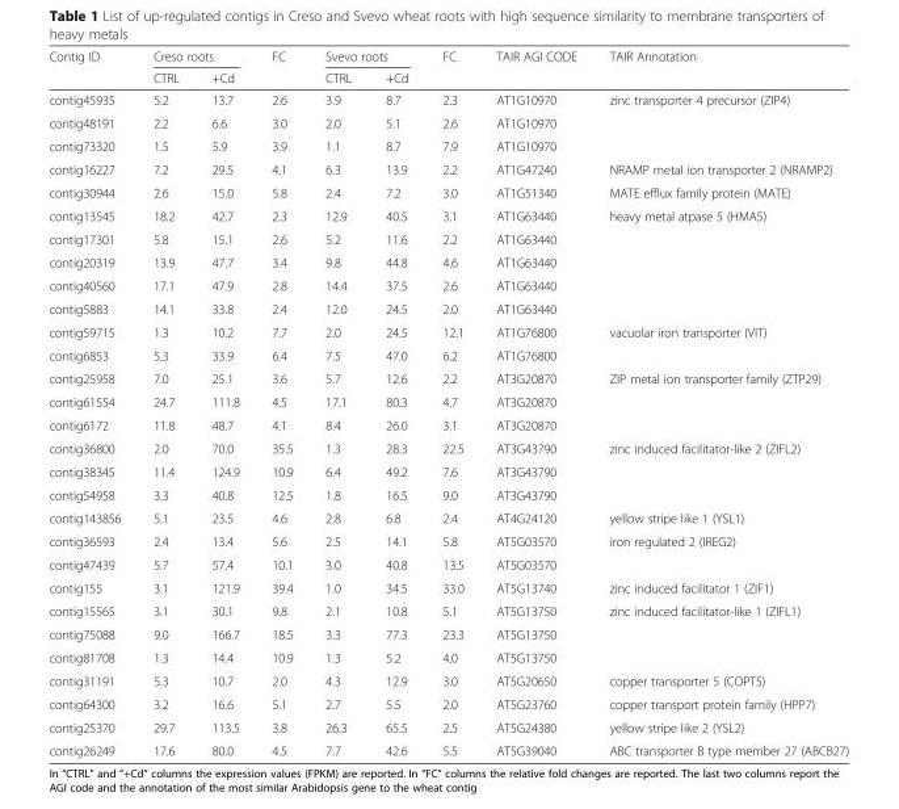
<table><thead><tr><td rowspan="2">Contig ID</td><td colspan="2">Creso roots</td><td rowspan="2">FC</td><td colspan="2">Svevo roots</td><td rowspan="2">FC</td><td rowspan="2">TAIR AGI CODE</td><td rowspan="2">TAIR Annotation</td></tr><tr><td>CTRL</td><td>+Cd</td><td>CTRL</td><td>+Cd</td></tr></thead><tbody><tr><td>contig45935</td><td>5.2</td><td>13.7</td><td>2.6</td><td>3.9</td><td>8.7</td><td>2.3</td><td>AT1G10970</td><td rowspan="3">zinc transporter 4 precursor (ZIP4)</td></tr><tr><td>contig48191</td><td>2.2</td><td>6.6</td><td>3.0</td><td>2.0</td><td>5.1</td><td>2.6</td><td>AT1G10970</td></tr><tr><td>contig73320</td><td>1.5</td><td>5.9</td><td>3.9</td><td>1.1</td><td>8.7</td><td>7.9</td><td>AT1G10970</td></tr><tr><td>contig16227</td><td>7.2</td><td>29.5</td><td>4.1</td><td>6.3</td><td>13.9</td><td>2.2</td><td>AT1G47240</td><td>NRAMP metal ion transporter 2 (NRAMP2)</td></tr><tr><td>contig30944</td><td>2.6</td><td>15.0</td><td>5.8</td><td>2.4</td><td>7.2</td><td>3.0</td><td>AT1G51340</td><td>MATE efflux family protein (MATE)</td></tr><tr><td>contig13545</td><td>18.2</td><td>42.7</td><td>2.3</td><td>12.9</td><td>40.5</td><td>3.1</td><td>AT1G63440</td><td rowspan="5">heavy metal atpase 5 (HMA5)</td></tr><tr><td>contig17301</td><td>5.8</td><td>15.1</td><td>2.6</td><td>5.2</td><td>11.6</td><td>2.2</td><td>AT1G63440</td></tr><tr><td>contig20319</td><td>13.9</td><td>47.7</td><td>3.4</td><td>9.8</td><td>44.8</td><td>4.6</td><td>AT1G63440</td></tr><tr><td>contig40560</td><td>17.1</td><td>47.9</td><td>2.8</td><td>14.4</td><td>37.5</td><td>2.6</td><td>AT1G63440</td></tr><tr><td>contig5883</td><td>14.1</td><td>33.8</td><td>2.4</td><td>12.0</td><td>24.5</td><td>2.0</td><td>AT1G63440</td></tr><tr><td>contig59715</td><td>1.3</td><td>10.2</td><td>7.7</td><td>2.0</td><td>24.5</td><td>12.1</td><td>AT1G76800</td><td rowspan="2">vacuolar iron transporter (VIT)</td></tr><tr><td>contig6853</td><td>5.3</td><td>33.9</td><td>6.4</td><td>7.5</td><td>47.0</td><td>6.2</td><td>AT1G76800</td></tr><tr><td>contig25958</td><td>7.0</td><td>25.1</td><td>3.6</td><td>5.7</td><td>12.6</td><td>2.2</td><td>AT3G20870</td><td rowspan="3">ZIP metal ion transporter family (ZTP29)</td></tr><tr><td>contig61554</td><td>24.7</td><td>111.8</td><td>4.5</td><td>17.1</td><td>80.3</td><td>4.7</td><td>AT3G20870</td></tr><tr><td>contig6172</td><td>11.8</td><td>48.7</td><td>4.1</td><td>8.4</td><td>26.0</td><td>3.1</td><td>AT3G20870</td></tr><tr><td>contig36800</td><td>2.0</td><td>70.0</td><td>35.5</td><td>1.3</td><td>28.3</td><td>22.5</td><td>AT3G43790</td><td rowspan="3">zinc induced facilitator-like 2 (ZIFL2)</td></tr><tr><td>contig38345</td><td>11.4</td><td>124.9</td><td>10.9</td><td>6.4</td><td>49.2</td><td>7.6</td><td>AT3G43790</td></tr><tr><td>contig54958</td><td>3.3</td><td>40.8</td><td>12.5</td><td>1.8</td><td>16.5</td><td>9.0</td><td>AT3G43790</td></tr><tr><td>contig143856</td><td>5.1</td><td>23.5</td><td>4.6</td><td>2.8</td><td>6.8</td><td>2.4</td><td>AT4G24120</td><td>yellow stripe like 1 (YSL1)</td></tr><tr><td>contig36593</td><td>2.4</td><td>13.4</td><td>5.6</td><td>2.5</td><td>14.1</td><td>5.8</td><td>AT5G03570</td><td rowspan="2">iron regulated 2 (IREG2)</td></tr><tr><td>contig47439</td><td>5.7</td><td>57.4</td><td>10.1</td><td>3.0</td><td>40.8</td><td>13.5</td><td>AT5G03570</td></tr><tr><td>contig155</td><td>3.1</td><td>121.9</td><td>39.4</td><td>1.0</td><td>34.5</td><td>33.0</td><td>AT5G13740</td><td>zinc induced facilitator 1 (ZIF1)</td></tr><tr><td>contig15565</td><td>3.1</td><td>30.1</td><td>9.8</td><td>2.1</td><td>10.8</td><td>5.1</td><td>AT5G13750</td><td rowspan="3">zinc induced facilitator-like 1 (ZIFL1)</td></tr><tr><td>contig75088</td><td>9.0</td><td>166.7</td><td>18.5</td><td>3.3</td><td>77.3</td><td>23.3</td><td>AT5G13750</td></tr><tr><td>contig81708</td><td>1.3</td><td>14.4</td><td>10.9</td><td>1.3</td><td>5.2</td><td>4.0</td><td>AT5G13750</td></tr><tr><td>contig31191</td><td>5.3</td><td>10.7</td><td>2.0</td><td>4.3</td><td>12.9</td><td>3.0</td><td>AT5G20650</td><td>copper transporter 5 (COPT5)</td></tr><tr><td>contig64300</td><td>3.2</td><td>16.6</td><td>5.1</td><td>2.7</td><td>5.5</td><td>2.0</td><td>AT5G23760</td><td>copper transport protein family (HPP7)</td></tr><tr><td>contig25370</td><td>29.7</td><td>113.5</td><td>3.8</td><td>26.3</td><td>65.5</td><td>2.5</td><td>AT5G24380</td><td>yellow stripe like 2 (YSL2)</td></tr><tr><td>contig26249</td><td>17.6</td><td>80.0</td><td>4.5</td><td>7.7</td><td>42.6</td><td>5.5</td><td>AT5G39040</td><td>ABC transporter B type member 27 (ABCB27)</td></tr></tbody></table>